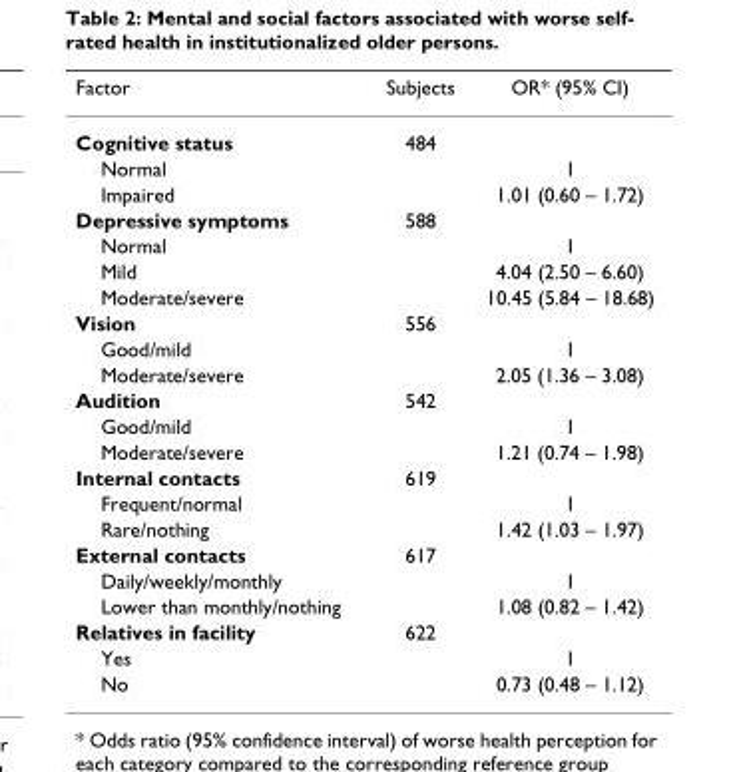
<table><thead><tr><td>Factor</td><td>Subjects</td><td>OR* (95% CI)</td></tr></thead><tbody><tr><td>Cognitive status</td><td>484</td><td></td></tr><tr><td>Normal</td><td></td><td>1</td></tr><tr><td>Impaired</td><td></td><td>1.01 (0.60 – 1.72)</td></tr><tr><td>Depressive symptoms</td><td>588</td><td></td></tr><tr><td>Normal</td><td></td><td>1</td></tr><tr><td>Mild</td><td></td><td>4.04 (2.50 – 6.60)</td></tr><tr><td>Moderate/severe</td><td></td><td>10.45 (5.84 – 18.68)</td></tr><tr><td>Vision</td><td>556</td><td></td></tr><tr><td>Good/mild</td><td></td><td>1</td></tr><tr><td>Moderate/severe</td><td></td><td>2.05 (1.36 – 3.08)</td></tr><tr><td>Audition</td><td>542</td><td></td></tr><tr><td>Good/mild</td><td></td><td>1</td></tr><tr><td>Moderate/severe</td><td></td><td>1.21 (0.74 – 1.98)</td></tr><tr><td>Internal contacts</td><td>619</td><td></td></tr><tr><td>Frequent/normal</td><td></td><td>1</td></tr><tr><td>Rare/nothing</td><td></td><td>1.42 (1.03 – 1.97)</td></tr><tr><td>External contacts</td><td>617</td><td></td></tr><tr><td>Daily/weekly/monthly</td><td></td><td>1</td></tr><tr><td>Lower than monthly/nothing</td><td></td><td>1.08 (0.82 – 1.42)</td></tr><tr><td>Relatives in facility</td><td>622</td><td></td></tr><tr><td>Yes</td><td></td><td>1</td></tr><tr><td>No</td><td></td><td>0.73 (0.48 – 1.12)</td></tr></tbody></table>